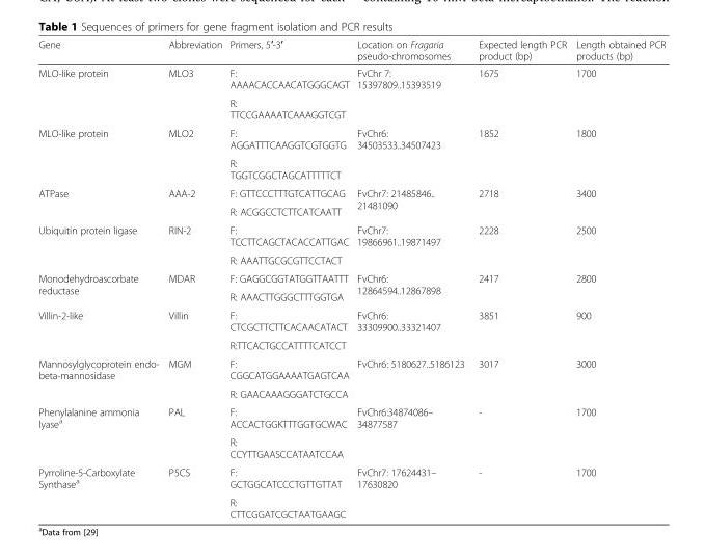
<table><thead><tr><td>Gene</td><td>Abbreviation</td><td>Primers, 5′-3′</td><td>Location on Fragaria pseudo-chromosomes</td><td>Expected length PCR product (bp)</td><td>Length obtained PCR products (bp)</td></tr></thead><tbody><tr><td rowspan="2">MLO-like protein</td><td rowspan="2">MLO3</td><td>F: AAAACACCAACATGGGCAGT</td><td rowspan="2">FvChr 7: 15397809..15393519</td><td rowspan="2">1675</td><td rowspan="2">1700</td></tr><tr><td>R: TTCCGAAAATCAAAGGTCGT</td></tr><tr><td rowspan="2">MLO-like protein</td><td rowspan="2">MLO2</td><td>F: AGGATTTCAAGGTCGTGGTG</td><td rowspan="2">FvChr6: 34503533..34507423</td><td rowspan="2">1852</td><td rowspan="2">1800</td></tr><tr><td>R: TGGTCGGCTAGCATTTTTCT</td></tr><tr><td rowspan="2">ATPase</td><td rowspan="2">AAA-2</td><td>F: GTTCCCTTTGTCATTGCAG</td><td rowspan="2">FvChr7: 21485846.. 21481090</td><td rowspan="2">2718</td><td rowspan="2">3400</td></tr><tr><td>R: ACGGCCTCTTCATCAATT</td></tr><tr><td rowspan="2">Ubiquitin protein ligase</td><td rowspan="2">RIN-2</td><td>F: TCCTTCAGCTACACCATTGAC</td><td rowspan="2">FvChr7: 19866961..19871497</td><td rowspan="2">2228</td><td rowspan="2">2500</td></tr><tr><td>R: AAATTGCGCGTTCCTACT</td></tr><tr><td rowspan="2">Monodehydroascorbate reductase</td><td rowspan="2">MDAR</td><td>F: GAGGCGGTATGGTTAATTT</td><td rowspan="2">FvChr6: 12864594..12867898</td><td rowspan="2">2417</td><td rowspan="2">2800</td></tr><tr><td>R: AAACTTGGGCTTTGGTGA</td></tr><tr><td rowspan="2">Villin-2-like</td><td rowspan="2">Villin</td><td>F: CTCGCTTCTTCACAACATACT</td><td rowspan="2">FvChr6: 33309900..33321407</td><td rowspan="2">3851</td><td rowspan="2">900</td></tr><tr><td>R:TTCACTGCCATTTTCATCCT</td></tr><tr><td rowspan="2">Mannosylglycoprotein endo- beta-mannosidase</td><td rowspan="2">MGM</td><td>F: CGGCATGGAAAATGAGTCAA</td><td rowspan="2">FvChr6: 5180627..5186123</td><td rowspan="2">3017</td><td rowspan="2">3000</td></tr><tr><td>R: GAACAAAGGGATCTGCCA</td></tr><tr><td rowspan="2">Phenylalanine ammonia lyase<sup>a</sup></td><td rowspan="2">PAL</td><td>F: ACCACTGGKTTTGGTGCWAC</td><td rowspan="2">FvChr6:34874086– 34877587</td><td rowspan="2">-</td><td rowspan="2">1700</td></tr><tr><td>R: CCYTTGAASCCATAATCCAA</td></tr><tr><td rowspan="2">Pyrroline-5-Carboxylate Synthase<sup>a</sup></td><td rowspan="2">P5CS</td><td>F: GCTGGCATCCCTGTTGTTAT</td><td rowspan="2">FvChr7: 17624431– 17630820</td><td rowspan="2">-</td><td rowspan="2">1700</td></tr><tr><td>R: CTTCGGATCGCTAATGAAGC</td></tr></tbody></table>